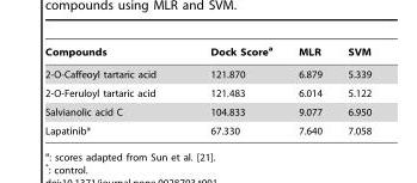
<table><thead><tr><td>Compounds</td><td>Dock Score<sup>a</sup></td><td>MLR</td><td>SVM</td></tr></thead><tbody><tr><td>2-O-Caffeoyl tartaric acid</td><td>121.870</td><td>6.879</td><td>5.339</td></tr><tr><td>2-O-Feruloyl tartaric acid</td><td>121.483</td><td>6.014</td><td>5.122</td></tr><tr><td>Salvianolic acid C</td><td>104.833</td><td>9.077</td><td>6.950</td></tr><tr><td>Lapatinib*</td><td>67.330</td><td>7.640</td><td>7.058</td></tr></tbody></table>